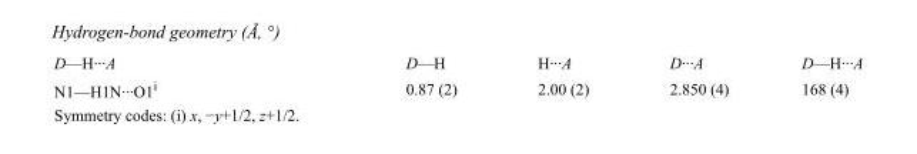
<table><tbody><tr><td>D—H···A</td><td>D—H</td><td>H···A</td><td>D···A</td><td>D—H···A</td></tr><tr><td>N1—H1N···O1<sup>i</sup></td><td>0.87 (2)</td><td>2.00 (2)</td><td>2.850 (4)</td><td>168 (4)</td></tr></tbody></table>